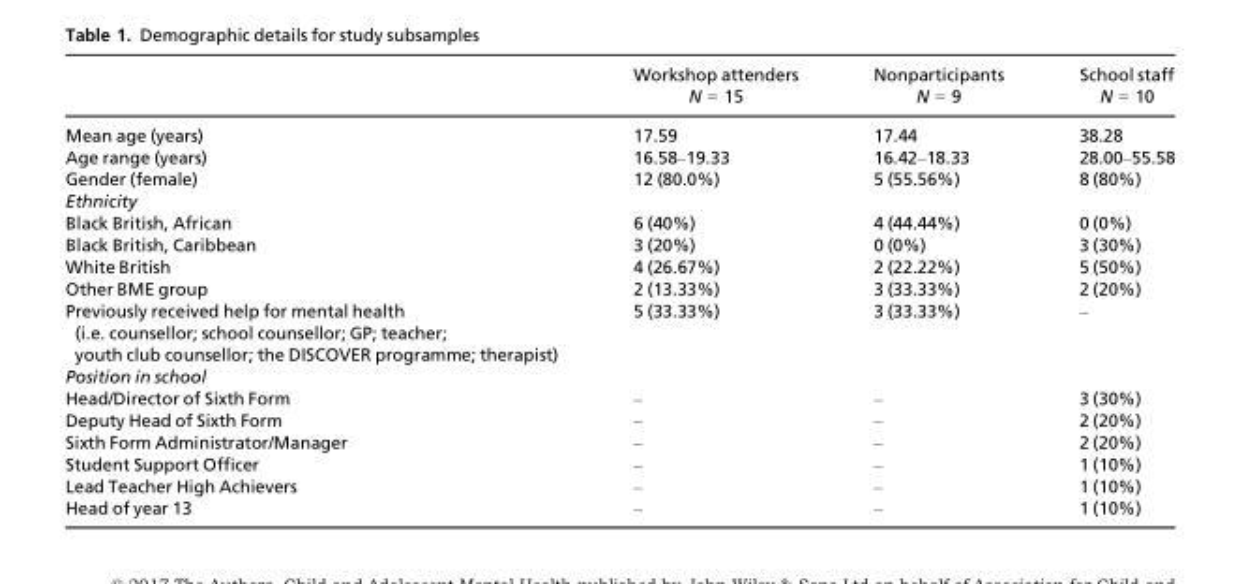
<table><thead><tr><td></td><td>Workshop attenders N = 15</td><td>Nonparticipants N = 9</td><td>School staff N = 10</td></tr></thead><tbody><tr><td>Mean age (years)</td><td>17.59</td><td>17.44</td><td>38.28</td></tr><tr><td>Age range (years)</td><td>16.58–19.33</td><td>16.42–18.33</td><td>28.00–55.58</td></tr><tr><td>Gender (female)</td><td>12 (80.0%)</td><td>5 (55.56%)</td><td>8 (80%)</td></tr><tr><td colspan="4">Ethnicity</td></tr><tr><td>Black British, African</td><td>6 (40%)</td><td>4 (44.44%)</td><td>0 (0%)</td></tr><tr><td>Black British, Caribbean</td><td>3 (20%)</td><td>0 (0%)</td><td>3 (30%)</td></tr><tr><td>White British</td><td>4 (26.67%)</td><td>2 (22.22%)</td><td>5 (50%)</td></tr><tr><td>Other BME group</td><td>2 (13.33%)</td><td>3 (33.33%)</td><td>2 (20%)</td></tr><tr><td>Previously received help for mental health (i.e. counsellor; school counsellor; GP; teacher; youth club counsellor; the DISCOVER programme; therapist)</td><td>5 (33.33%)</td><td>3 (33.33%)</td><td>–</td></tr><tr><td colspan="4">Position in school</td></tr><tr><td>Head/Director of Sixth Form</td><td>–</td><td>–</td><td>3 (30%)</td></tr><tr><td>Deputy Head of Sixth Form</td><td>–</td><td>–</td><td>2 (20%)</td></tr><tr><td>Sixth Form Administrator/Manager</td><td>–</td><td>–</td><td>2 (20%)</td></tr><tr><td>Student Support Officer</td><td>–</td><td>–</td><td>1 (10%)</td></tr><tr><td>Lead Teacher High Achievers</td><td>–</td><td>–</td><td>1 (10%)</td></tr><tr><td>Head of year 13</td><td>–</td><td>–</td><td>1 (10%)</td></tr></tbody></table>